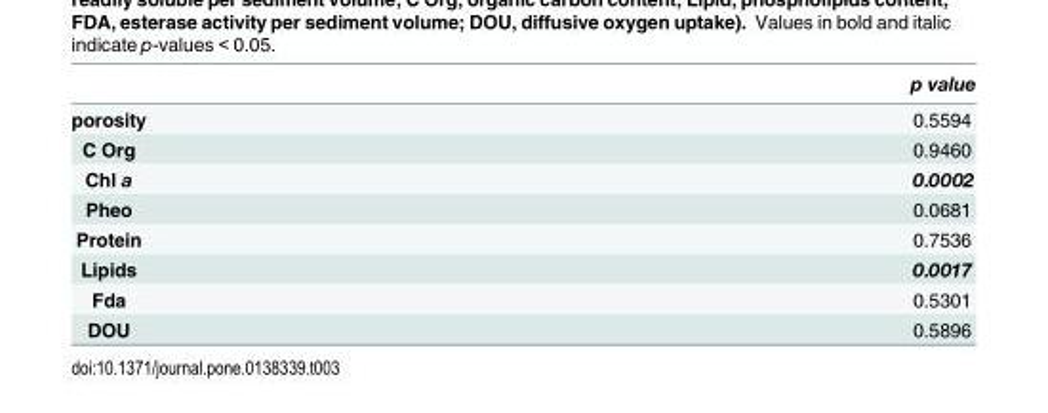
<table><thead><tr><td></td><td>p value</td></tr></thead><tbody><tr><td>porosity</td><td>0.5594</td></tr><tr><td>C Org</td><td>0.9460</td></tr><tr><td>Chl a</td><td>0.0002</td></tr><tr><td>Pheo</td><td>0.0681</td></tr><tr><td>Protein</td><td>0.7536</td></tr><tr><td>Lipids</td><td>0.0017</td></tr><tr><td>Fda</td><td>0.5301</td></tr><tr><td>DOU</td><td>0.5896</td></tr></tbody></table>